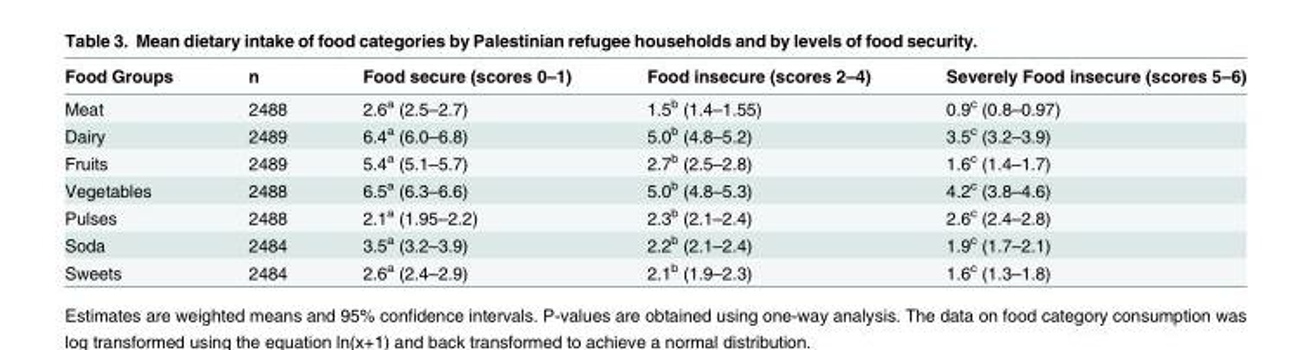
<table><thead><tr><td>Food Groups</td><td>n</td><td>Food secure (scores 0–1)</td><td>Food insecure (scores 2–4)</td><td>Severely Food insecure (scores 5–6)</td></tr></thead><tbody><tr><td>Meat</td><td>2488</td><td>2.6<sup>a</sup> (2.5–2.7)</td><td>1.5<sup>b</sup> (1.4–1.55)</td><td>0.9<sup>c</sup> (0.8–0.97)</td></tr><tr><td>Dairy</td><td>2489</td><td>6.4<sup>a</sup> (6.0–6.8)</td><td>5.0<sup>b</sup> (4.8–5.2)</td><td>3.5<sup>c</sup> (3.2–3.9)</td></tr><tr><td>Fruits</td><td>2489</td><td>5.4<sup>a</sup> (5.1–5.7)</td><td>2.7<sup>b</sup> (2.5–2.8)</td><td>1.6<sup>c</sup> (1.4–1.7)</td></tr><tr><td>Vegetables</td><td>2488</td><td>6.5<sup>a</sup> (6.3–6.6)</td><td>5.0<sup>b</sup> (4.8–5.3)</td><td>4.2<sup>c</sup> (3.8–4.6)</td></tr><tr><td>Pulses</td><td>2488</td><td>2.1<sup>a</sup> (1.95–2.2)</td><td>2.3<sup>b</sup> (2.1–2.4)</td><td>2.6<sup>c</sup> (2.4–2.8)</td></tr><tr><td>Soda</td><td>2484</td><td>3.5<sup>a</sup> (3.2–3.9)</td><td>2.2<sup>b</sup> (2.1–2.4)</td><td>1.9<sup>c</sup> (1.7–2.1)</td></tr><tr><td>Sweets</td><td>2484</td><td>2.6<sup>a</sup> (2.4–2.9)</td><td>2.1<sup>b</sup> (1.9–2.3)</td><td>1.6<sup>c</sup> (1.3–1.8)</td></tr></tbody></table>